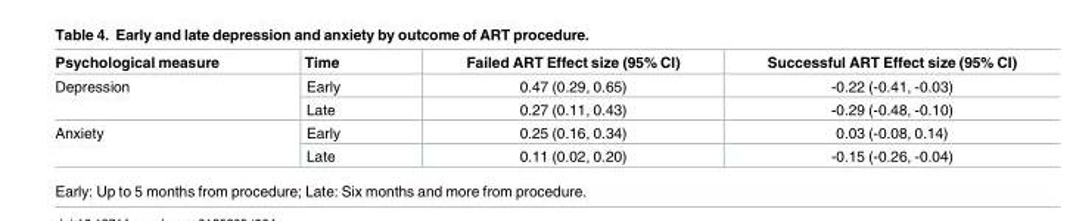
<table><thead><tr><td>Psychological measure</td><td>Time</td><td>Failed ART Effect size (95% CI)</td><td>Successful ART Effect size (95% CI)</td></tr></thead><tbody><tr><td rowspan="2">Depression</td><td>Early</td><td>0.47 (0.29, 0.65)</td><td>-0.22 (-0.41, -0.03)</td></tr><tr><td>Late</td><td>0.27 (0.11, 0.43)</td><td>-0.29 (-0.48, -0.10)</td></tr><tr><td rowspan="2">Anxiety</td><td>Early</td><td>0.25 (0.16, 0.34)</td><td>0.03 (-0.08, 0.14)</td></tr><tr><td>Late</td><td>0.11 (0.02, 0.20)</td><td>-0.15 (-0.26, -0.04)</td></tr></tbody></table>